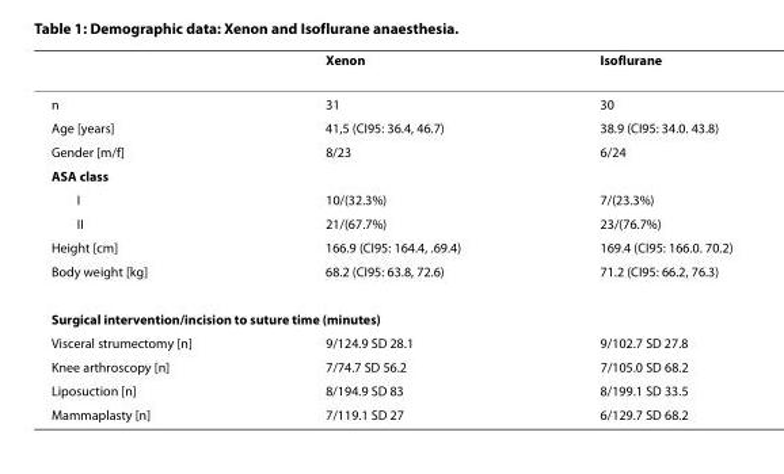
<table><thead><tr><td></td><td>Xenon</td><td>Isoflurane</td></tr></thead><tbody><tr><td>n</td><td>31</td><td>30</td></tr><tr><td>Age [years]</td><td>41,5 (CI95: 36.4, 46.7)</td><td>38.9 (CI95: 34.0. 43.8)</td></tr><tr><td>Gender [m/f]</td><td>8/23</td><td>6/24</td></tr><tr><td colspan="3">ASA class</td></tr><tr><td>I</td><td>10/(32.3%)</td><td>7/(23.3%)</td></tr><tr><td>II</td><td>21/(67.7%)</td><td>23/(76.7%)</td></tr><tr><td>Height [cm]</td><td>166.9 (CI95: 164.4, .69.4)</td><td>169.4 (CI95: 166.0. 70.2)</td></tr><tr><td>Body weight [kg]</td><td>68.2 (CI95: 63.8, 72.6)</td><td>71.2 (CI95: 66.2, 76.3)</td></tr><tr><td colspan="3">Surgical intervention/incision to suture time (minutes)</td></tr><tr><td>Visceral strumectomy [n]</td><td>9/124.9 SD 28.1</td><td>9/102.7 SD 27.8</td></tr><tr><td>Knee arthroscopy [n]</td><td>7/74.7 SD 56.2</td><td>7/105.0 SD 68.2</td></tr><tr><td>Liposuction [n]</td><td>8/194.9 SD 83</td><td>8/199.1 SD 33.5</td></tr><tr><td>Mammaplasty [n]</td><td>7/119.1 SD 27</td><td>6/129.7 SD 68.2</td></tr></tbody></table>